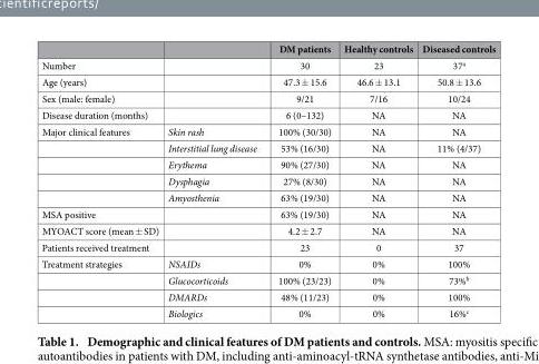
<table><thead><tr><td></td><td></td><td>DM patients</td><td>Healthy controls</td><td>Diseased controls</td></tr></thead><tbody><tr><td>Number</td><td></td><td>30</td><td>23</td><td>37<sup>a</sup></td></tr><tr><td>Age (years)</td><td></td><td>47.3 ± 15.6</td><td>46.6 ± 13.1</td><td>50.8 ± 13.6</td></tr><tr><td>Sex (male: female)</td><td></td><td>9/21</td><td>7/16</td><td>10/24</td></tr><tr><td>Disease duration (months)</td><td></td><td>6 (0–132)</td><td>NA</td><td>NA</td></tr><tr><td rowspan="5">Major clinical features</td><td>Skin rash</td><td>100% (30/30)</td><td>NA</td><td>NA</td></tr><tr><td>Interstitial lung disease</td><td>53% (16/30)</td><td>NA</td><td>11% (4/37)</td></tr><tr><td>Erythema</td><td>90% (27/30)</td><td>NA</td><td>NA</td></tr><tr><td>Dysphagia</td><td>27% (8/30)</td><td>NA</td><td>NA</td></tr><tr><td>Amyosthenia</td><td>63% (19/30)</td><td>NA</td><td>NA</td></tr><tr><td>MSA positive</td><td></td><td>63% (19/30)</td><td>NA</td><td>NA</td></tr><tr><td>MYOACT score (mean ± SD)</td><td></td><td>4.2 ± 2.7</td><td>NA</td><td>NA</td></tr><tr><td>Patients received treatment</td><td></td><td>23</td><td>0</td><td>37</td></tr><tr><td rowspan="4">Treatment strategies</td><td>NSAIDs</td><td>0%</td><td>0%</td><td>100%</td></tr><tr><td>Glucocorticoids</td><td>100% (23/23)</td><td>0%</td><td>73%<sup>b</sup></td></tr><tr><td>DMARDs</td><td>48% (11/23)</td><td>0%</td><td>100%</td></tr><tr><td>Biologics</td><td>0%</td><td>0%</td><td>16%<sup>c</sup></td></tr></tbody></table>